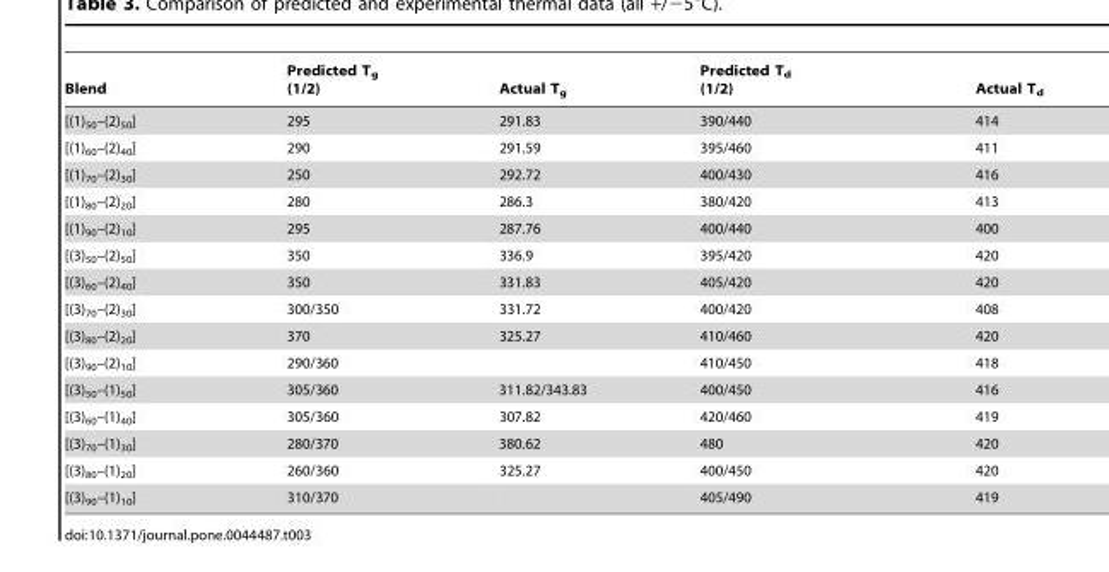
<table><thead><tr><td>Blend</td><td>Predicted T<sub>g</sub> (1/2)</td><td>Actual T<sub>g</sub></td><td>Predicted T<sub>d</sub> (1/2)</td><td>Actual T<sub>d</sub></td></tr></thead><tbody><tr><td>[(1)<sub>50</sub>–(2)<sub>50</sub>]</td><td>295</td><td>291.83</td><td>390/440</td><td>414</td></tr><tr><td>[(1)<sub>60</sub>–(2)<sub>40</sub>]</td><td>290</td><td>291.59</td><td>395/460</td><td>411</td></tr><tr><td>[(1)<sub>70</sub>–(2)<sub>30</sub>]</td><td>250</td><td>292.72</td><td>400/430</td><td>416</td></tr><tr><td>[(1)<sub>80</sub>–(2)<sub>20</sub>]</td><td>280</td><td>286.3</td><td>380/420</td><td>413</td></tr><tr><td>[(1)<sub>90</sub>–(2)<sub>10</sub>]</td><td>295</td><td>287.76</td><td>400/440</td><td>400</td></tr><tr><td>[(3)<sub>50</sub>–(2)<sub>50</sub>]</td><td>350</td><td>336.9</td><td>395/420</td><td>420</td></tr><tr><td>[(3)<sub>60</sub>–(2)<sub>40</sub>]</td><td>350</td><td>331.83</td><td>405/420</td><td>420</td></tr><tr><td>[(3)<sub>70</sub>–(2)<sub>30</sub>]</td><td>300/350</td><td>331.72</td><td>400/420</td><td>408</td></tr><tr><td>[(3)<sub>80</sub>–(2)<sub>20</sub>]</td><td>370</td><td>325.27</td><td>410/460</td><td>420</td></tr><tr><td>[(3)<sub>90</sub>–(2)<sub>10</sub>]</td><td>290/360</td><td></td><td>410/450</td><td>418</td></tr><tr><td>[(3)<sub>50</sub>–(1)<sub>50</sub>]</td><td>305/360</td><td>311.82/343.83</td><td>400/450</td><td>416</td></tr><tr><td>[(3)<sub>60</sub>–(1)<sub>40</sub>]</td><td>305/360</td><td>307.82</td><td>420/460</td><td>419</td></tr><tr><td>[(3)<sub>70</sub>–(1)<sub>30</sub>]</td><td>280/370</td><td>380.62</td><td>480</td><td>420</td></tr><tr><td>[(3)<sub>80</sub>–(1)<sub>20</sub>]</td><td>260/360</td><td>325.27</td><td>400/450</td><td>420</td></tr><tr><td>[(3)<sub>90</sub>–(1)<sub>10</sub>]</td><td>310/370</td><td></td><td>405/490</td><td>419</td></tr></tbody></table>